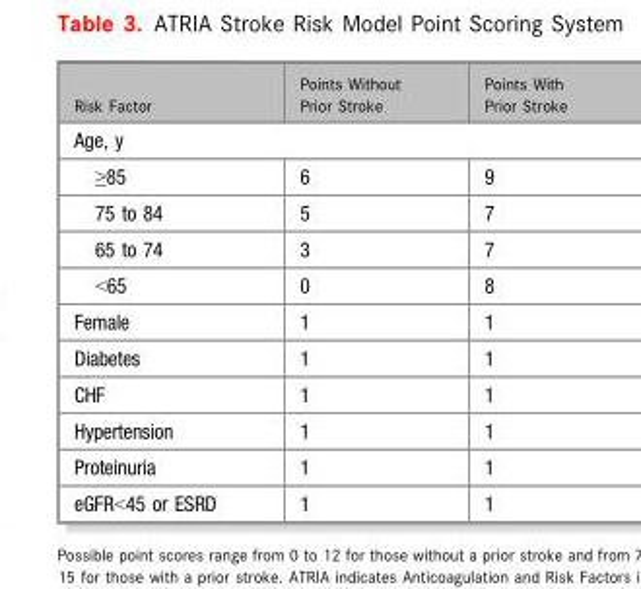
<table><thead><tr><td>Risk Factor</td><td>Points Without Prior Stroke</td><td>Points With Prior Stroke</td></tr></thead><tbody><tr><td colspan="3">Age, y</td></tr><tr><td>≥85</td><td>6</td><td>9</td></tr><tr><td>75 to 84</td><td>5</td><td>7</td></tr><tr><td>65 to 74</td><td>3</td><td>7</td></tr><tr><td>&lt;65</td><td>0</td><td>8</td></tr><tr><td>Female</td><td>1</td><td>1</td></tr><tr><td>Diabetes</td><td>1</td><td>1</td></tr><tr><td>CHF</td><td>1</td><td>1</td></tr><tr><td>Hypertension</td><td>1</td><td>1</td></tr><tr><td>Proteinuria</td><td>1</td><td>1</td></tr><tr><td>eGFR&lt;45 or ESRD</td><td>1</td><td>1</td></tr></tbody></table>